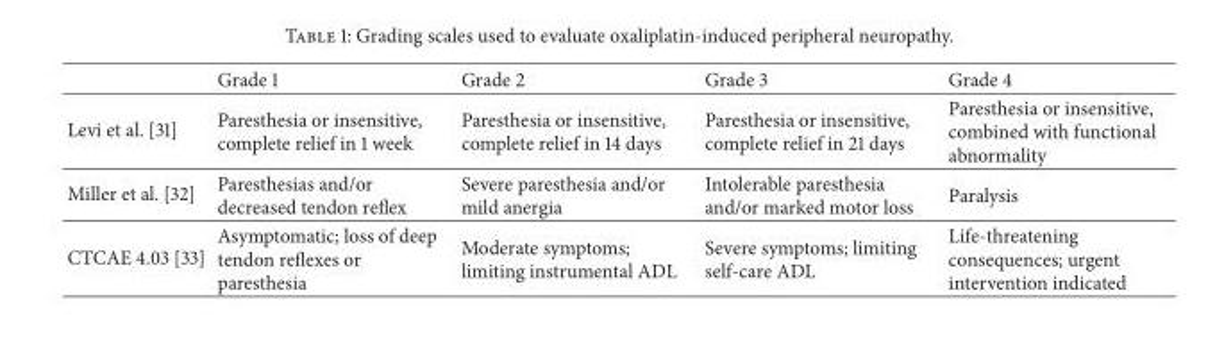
<table><thead><tr><td></td><td>Grade 1</td><td>Grade 2</td><td>Grade 3</td><td>Grade 4</td></tr></thead><tbody><tr><td>Levi et al. [31]</td><td>Paresthesia or insensitive, complete relief in 1 week</td><td>Paresthesia or insensitive, complete relief in 14 days</td><td>Paresthesia or insensitive, complete relief in 21 days</td><td>Paresthesia or insensitive, combined with functional abnormality</td></tr><tr><td>Miller et al. [32]</td><td>Paresthesias and/or decreased tendon reflex</td><td>Severe paresthesia and/or mild anergia</td><td>Intolerable paresthesia and/or marked motor loss</td><td>Paralysis</td></tr><tr><td>CTCAE 4.03 [33]</td><td>Asymptomatic; loss of deep tendon reflexes or paresthesia</td><td>Moderate symptoms; limiting instrumental ADL</td><td>Severe symptoms; limiting self-care ADL</td><td>Life-threatening consequences; urgent intervention indicated</td></tr></tbody></table>